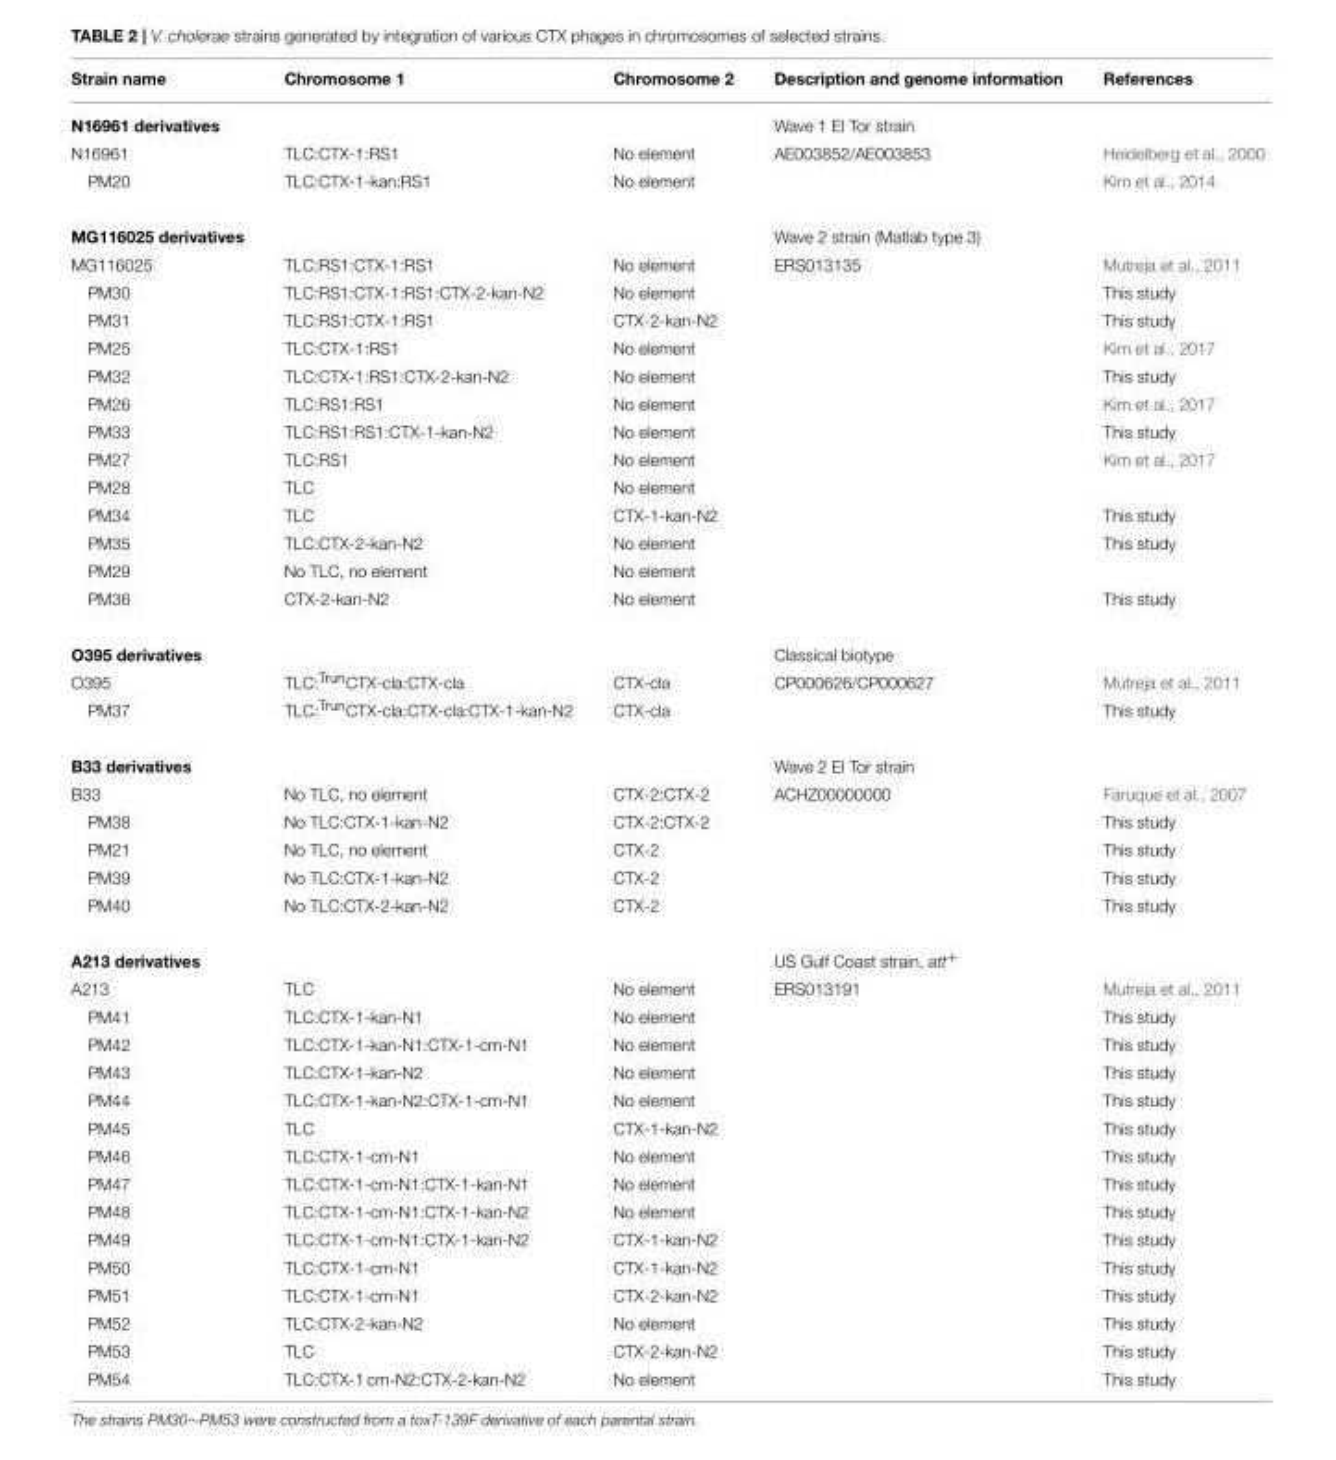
<table><thead><tr><td>Strain name</td><td>Chromosome 1</td><td>Chromosome 2</td><td>Description and genome information</td><td>References</td></tr></thead><tbody><tr><td>N16961 derivatives</td><td></td><td></td><td>Wave 1 El Tor strain</td><td></td></tr><tr><td>N16961</td><td>TLC:CTX-1:RS1</td><td>No element</td><td>AE003852/AE003853</td><td>Heidelberg et al., 2000</td></tr><tr><td>PM20</td><td>TLC:CTX-1-kan:RS1</td><td>No element</td><td></td><td>Kim et al., 2014</td></tr><tr><td>MG116025 derivatives</td><td></td><td></td><td>Wave 2 strain (Matlab type 3)</td><td></td></tr><tr><td>MG116025</td><td>TLC:RS1:CTX-1:RS1</td><td>No element</td><td>ERS013135</td><td>Mutreja et al., 2011</td></tr><tr><td>PM30</td><td>TLC:RS1:CTX-1:RS1:CTX-2-kan-N2</td><td>No element</td><td></td><td>This study</td></tr><tr><td>PM31</td><td>TLC:RS1:CTX-1:RS1</td><td>CTX-2-kan-N2</td><td></td><td>This study</td></tr><tr><td>PM25</td><td>TLC:CTX-1:RS1</td><td>No element</td><td></td><td>Kim et al., 2017</td></tr><tr><td>PM32</td><td>TLC:CTX-1:RS1:CTX-2-kan-N2</td><td>No element</td><td></td><td>This study</td></tr><tr><td>PM26</td><td>TLC:RS1:RS1</td><td>No element</td><td></td><td>Kim et al., 2017</td></tr><tr><td>PM33</td><td>TLC:RS1:RS1:CTX-1-kan-N2</td><td>No element</td><td></td><td>This study</td></tr><tr><td>PM27</td><td>TLC:RS1</td><td>No element</td><td></td><td>Kim et al., 2017</td></tr><tr><td>PM28</td><td>TLC</td><td>No element</td><td></td><td></td></tr><tr><td>PM34</td><td>TLC</td><td>CTX-1-kan-N2</td><td></td><td>This study</td></tr><tr><td>PM35</td><td>TLC:CTX-2-kan-N2</td><td>No element</td><td></td><td>This study</td></tr><tr><td>PM29</td><td>No TLC, no element</td><td>No element</td><td></td><td></td></tr><tr><td>PM36</td><td>CTX-2-kan-N2</td><td>No element</td><td></td><td>This study</td></tr><tr><td>O395 derivatives</td><td></td><td></td><td>Classical biotype</td><td></td></tr><tr><td>O395</td><td>TLC:<sup>Trun</sup>CTX-cla:CTX-cla</td><td>CTX-cla</td><td>CP000626/CP000627</td><td>Mutreja et al., 2011</td></tr><tr><td>PM37</td><td>TLC:<sup>Trun</sup>CTX-cla:CTX-cla:CTX-1-kan-N2</td><td>CTX-cla</td><td></td><td>This study</td></tr><tr><td>B33 derivatives</td><td></td><td></td><td>Wave 2 El Tor strain</td><td></td></tr><tr><td>B33</td><td>No TLC, no element</td><td>CTX-2:CTX-2</td><td>ACHZ00000000</td><td>Faruque et al., 2007</td></tr><tr><td>PM38</td><td>No TLC:CTX-1-kan-N2</td><td>CTX-2:CTX-2</td><td></td><td>This study</td></tr><tr><td>PM21</td><td>No TLC, no element</td><td>CTX-2</td><td></td><td>This study</td></tr><tr><td>PM39</td><td>No TLC:CTX-1-kan-N2</td><td>CTX-2</td><td></td><td>This study</td></tr><tr><td>PM40</td><td>No TLC:CTX-2-kan-N2</td><td>CTX-2</td><td></td><td>This study</td></tr><tr><td>A213 derivatives</td><td></td><td></td><td>US Gulf Coast strain, att<sup>+</sup></td><td></td></tr><tr><td>A213</td><td>TLC</td><td>No element</td><td>ERS013191</td><td>Mutreja et al., 2011</td></tr><tr><td>PM41</td><td>TLC:CTX-1-kan-N1</td><td>No element</td><td></td><td>This study</td></tr><tr><td>PM42</td><td>TLC:CTX-1-kan-N1:CTX-1-cm-N1</td><td>No element</td><td></td><td>This study</td></tr><tr><td>PM43</td><td>TLC:CTX-1-kan-N2</td><td>No element</td><td></td><td>This study</td></tr><tr><td>PM44</td><td>TLC:CTX-1-kan-N2:CTX-1-cm-N1</td><td>No element</td><td></td><td>This study</td></tr><tr><td>PM45</td><td>TLC</td><td>CTX-1-kan-N2</td><td></td><td>This study</td></tr><tr><td>PM46</td><td>TLC:CTX-1-cm-N1</td><td>No element</td><td></td><td>This study</td></tr><tr><td>PM47</td><td>TLC:CTX-1-cm-N1:CTX-1-kan-N1</td><td>No element</td><td></td><td>This study</td></tr><tr><td>PM48</td><td>TLC:CTX-1-cm-N1:CTX-1-kan-N2</td><td>No element</td><td></td><td>This study</td></tr><tr><td>PM49</td><td>TLC:CTX-1-cm-N1:CTX-1-kan-N2</td><td>CTX-1-kan-N2</td><td></td><td>This study</td></tr><tr><td>PM50</td><td>TLC:CTX-1-cm-N1</td><td>CTX-1-kan-N2</td><td></td><td>This study</td></tr><tr><td>PM51</td><td>TLC:CTX-1-cm-N1</td><td>CTX-2-kan-N2</td><td></td><td>This study</td></tr><tr><td>PM52</td><td>TLC:CTX-2-kan-N2</td><td>No element</td><td></td><td>This study</td></tr><tr><td>PM53</td><td>TLC</td><td>CTX-2-kan-N2</td><td></td><td>This study</td></tr><tr><td>PM54</td><td>TLC:CTX-1 cm-N2:CTX-2-kan-N2</td><td>No element</td><td></td><td>This study</td></tr></tbody></table>